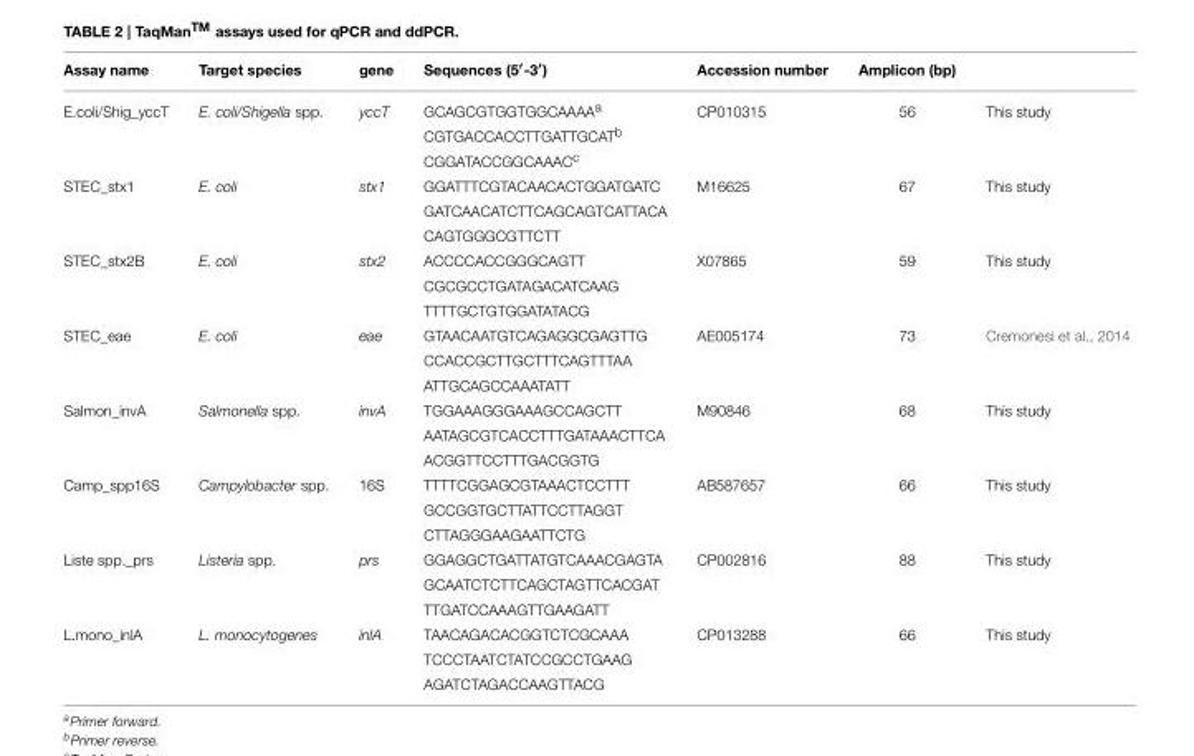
<table><thead><tr><td>Assay name</td><td>Target species</td><td>gene</td><td>Sequences (5′-3′)</td><td>Accession number</td><td>Amplicon (bp)</td><td></td></tr></thead><tbody><tr><td rowspan="3">E.coli/Shig_yccT</td><td>E. coli/Shigella spp.</td><td>yccT</td><td>GCAGCGTGGTGGCAAAA<sup>a</sup></td><td>CP010315</td><td>56</td><td>This study</td></tr><tr><td></td><td></td><td>CGTGACCACCTTGATTGCAT<sup>b</sup></td><td></td><td></td><td></td></tr><tr><td></td><td></td><td>CGGATACCGGCAAAC<sup>c</sup></td><td></td><td></td><td></td></tr><tr><td rowspan="3">STEC_stx1</td><td>E. coli</td><td>stx1</td><td>GGATTTCGTACAACACTGGATGATC</td><td>M16625</td><td>67</td><td>This study</td></tr><tr><td></td><td></td><td>GATCAACATCTTCAGCAGTCATTACA</td><td></td><td></td><td></td></tr><tr><td></td><td></td><td>CAGTGGGCGTTCTT</td><td></td><td></td><td></td></tr><tr><td rowspan="3">STEC_stx2B</td><td>E. coli</td><td>stx2</td><td>ACCCCACCGGGCAGTT</td><td>X07865</td><td>59</td><td>This study</td></tr><tr><td></td><td></td><td>CGCGCCTGATAGACATCAAG</td><td></td><td></td><td></td></tr><tr><td></td><td></td><td>TTTTGCTGTGGATATACG</td><td></td><td></td><td></td></tr><tr><td rowspan="3">STEC_eae</td><td>E. coli</td><td>eae</td><td>GTAACAATGTCAGAGGCGAGTTG</td><td>AE005174</td><td>73</td><td>Cremonesi et al., 2014</td></tr><tr><td></td><td></td><td>CCACCGCTTGCTTTCAGTTTAA</td><td></td><td></td><td></td></tr><tr><td></td><td></td><td>ATTGCAGCCAAATATT</td><td></td><td></td><td></td></tr><tr><td rowspan="3">Salmon_invA</td><td>Salmonella spp.</td><td>invA</td><td>TGGAAAGGGAAAGCCAGCTT</td><td>M90846</td><td>68</td><td>This study</td></tr><tr><td></td><td></td><td>AATAGCGTCACCTTTGATAAACTTCA</td><td></td><td></td><td></td></tr><tr><td></td><td></td><td>ACGGTTCCTTTGACGGTG</td><td></td><td></td><td></td></tr><tr><td rowspan="3">Camp_spp16S</td><td>Campylobacter spp.</td><td>16S</td><td>TTTTCGGAGCGTAAACTCCTTT</td><td>AB587657</td><td>66</td><td>This study</td></tr><tr><td></td><td></td><td>GCCGGTGCTTATTCCTTAGGT</td><td></td><td></td><td></td></tr><tr><td></td><td></td><td>CTTAGGGAAGAATTCTG</td><td></td><td></td><td></td></tr><tr><td rowspan="3">Liste spp._prs</td><td>Listeria spp.</td><td>prs</td><td>GGAGGCTGATTATGTCAAACGAGTA</td><td>CP002816</td><td>88</td><td>This study</td></tr><tr><td></td><td></td><td>GCAATCTCTTCAGCTAGTTCACGAT</td><td></td><td></td><td></td></tr><tr><td></td><td></td><td>TTGATCCAAAGTTGAAGATT</td><td></td><td></td><td></td></tr><tr><td rowspan="3">L.mono_inlA</td><td>L. monocytogenes</td><td>inlA</td><td>TAACAGACACGGTCTCGCAAA</td><td>CP013288</td><td>66</td><td>This study</td></tr><tr><td></td><td></td><td>TCCCTAATCTATCCGCCTGAAG</td><td></td><td></td><td></td></tr><tr><td></td><td></td><td>AGATCTAGACCAAGTTACG</td><td></td><td></td><td></td></tr></tbody></table>